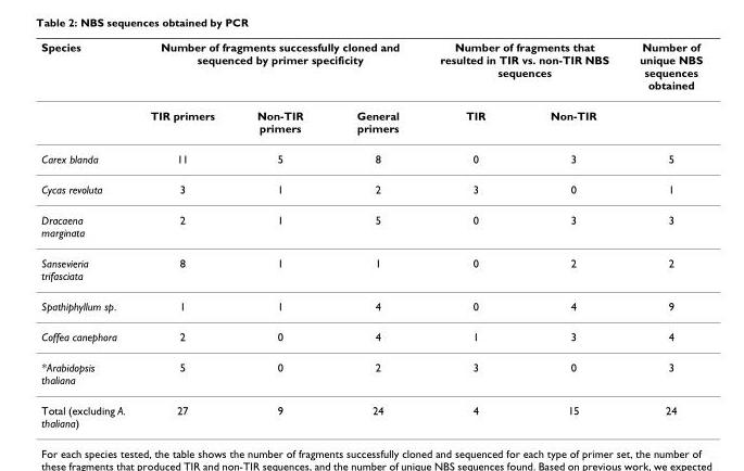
<table><thead><tr><td rowspan="2">Species</td><td colspan="3">Number of fragments successfully cloned and sequenced by primer specificity</td><td colspan="2">Number of fragments that resulted in TIR vs. non-TIR NBS sequences</td><td rowspan="2">Number of unique NBS sequences obtained</td></tr><tr><td>TIR primers</td><td>Non-TIR primers</td><td>General primers</td><td>TIR</td><td>Non-TIR</td></tr></thead><tbody><tr><td>Carex blanda</td><td>11</td><td>5</td><td>8</td><td>0</td><td>3</td><td>5</td></tr><tr><td>Cycas revoluta</td><td>3</td><td>1</td><td>2</td><td>3</td><td>0</td><td>1</td></tr><tr><td>Dracaena marginata</td><td>2</td><td>1</td><td>5</td><td>0</td><td>3</td><td>3</td></tr><tr><td>Sansevieria trifasciata</td><td>8</td><td>1</td><td>1</td><td>0</td><td>2</td><td>2</td></tr><tr><td>Spathiphyllum sp.</td><td>1</td><td>1</td><td>4</td><td>0</td><td>4</td><td>9</td></tr><tr><td>Coffea canephora</td><td>2</td><td>0</td><td>4</td><td>1</td><td>3</td><td>4</td></tr><tr><td>*Arabidopsis thaliana</td><td>5</td><td>0</td><td>2</td><td>3</td><td>0</td><td>3</td></tr><tr><td>Total (excluding A. thaliana)</td><td>27</td><td>9</td><td>24</td><td>4</td><td>15</td><td>24</td></tr></tbody></table>